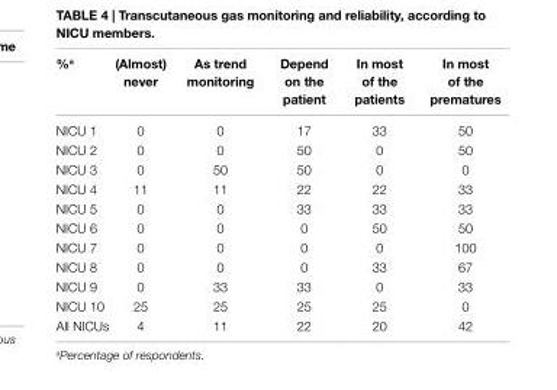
<table><thead><tr><td>%<sup>a</sup></td><td>(almost) never</td><td>as trend monitoring</td><td>Depend on the patient</td><td>in most of the patients</td><td>in most of the prematures</td></tr></thead><tbody><tr><td>NICU 1</td><td>0</td><td>0</td><td>17</td><td>33</td><td>50</td></tr><tr><td>NICU 2</td><td>0</td><td>0</td><td>50</td><td>0</td><td>50</td></tr><tr><td>NICU 3</td><td>0</td><td>50</td><td>50</td><td>0</td><td>0</td></tr><tr><td>NICU 4</td><td>11</td><td>11</td><td>22</td><td>22</td><td>33</td></tr><tr><td>NICU 5</td><td>0</td><td>0</td><td>33</td><td>33</td><td>33</td></tr><tr><td>NICU 6</td><td>0</td><td>0</td><td>0</td><td>50</td><td>50</td></tr><tr><td>NICU 7</td><td>0</td><td>0</td><td>0</td><td>0</td><td>100</td></tr><tr><td>NICU 8</td><td>0</td><td>0</td><td>0</td><td>33</td><td>67</td></tr><tr><td>NICU 9</td><td>0</td><td>33</td><td>33</td><td>0</td><td>33</td></tr><tr><td>NICU 10</td><td>25</td><td>25</td><td>25</td><td>25</td><td>0</td></tr><tr><td>All NICUs</td><td>4</td><td>11</td><td>22</td><td>20</td><td>42</td></tr></tbody></table>